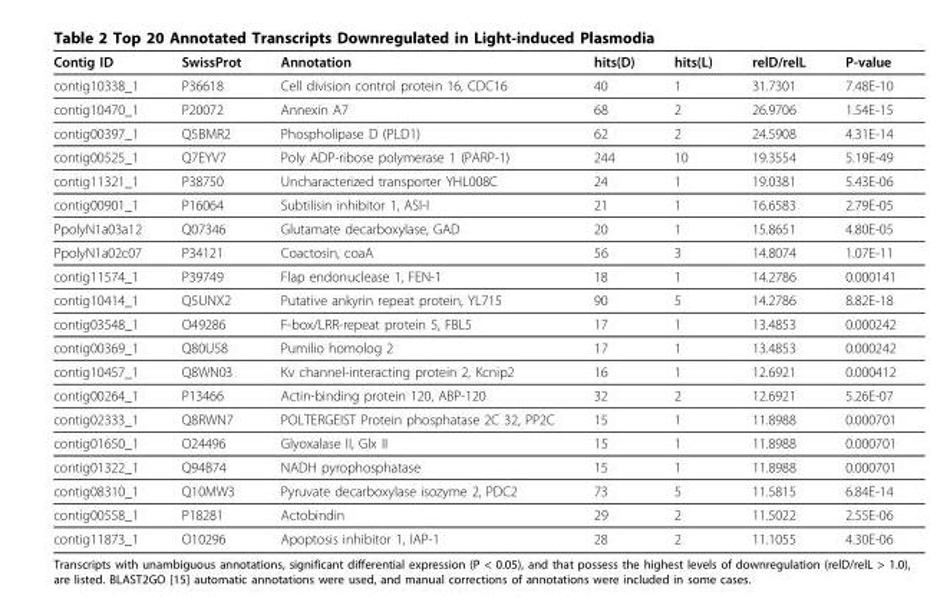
<table><thead><tr><td>Contig ID</td><td>SwissProt</td><td>Annotation</td><td>hits(D)</td><td>hits(L)</td><td>relD/relL</td><td>P-value</td></tr></thead><tbody><tr><td>contig10338_1</td><td>P36618</td><td>Cell division control protein 16, CDC16</td><td>40</td><td>1</td><td>31.7301</td><td>7.48E-10</td></tr><tr><td>contig10470_1</td><td>P20072</td><td>Annexin A7</td><td>68</td><td>2</td><td>26.9706</td><td>1.54E-15</td></tr><tr><td>contig00397_1</td><td>Q5BMR2</td><td>Phospholipase D (PLD1)</td><td>62</td><td>2</td><td>24.5908</td><td>4.31E-14</td></tr><tr><td>contig00525_1</td><td>Q7EYV7</td><td>Poly ADP-ribose polymerase 1 (PARP-1)</td><td>244</td><td>10</td><td>19.3554</td><td>5.19E-49</td></tr><tr><td>contig11321_1</td><td>P38750</td><td>Uncharacterized transporter YHL008C</td><td>24</td><td>1</td><td>19.0381</td><td>5.43E-06</td></tr><tr><td>contig00901_1</td><td>P16064</td><td>Subtilisin inhibitor 1, ASI-I</td><td>21</td><td>1</td><td>16.6583</td><td>2.79E-05</td></tr><tr><td>PpolyN1a03a12</td><td>Q07346</td><td>Glutamate decarboxylase, GAD</td><td>20</td><td>1</td><td>15.8651</td><td>4.80E-05</td></tr><tr><td>PpolyN1a02c07</td><td>P34121</td><td>Coactosin, coaA</td><td>56</td><td>3</td><td>14.8074</td><td>1.07E-11</td></tr><tr><td>contig11574_1</td><td>P39749</td><td>Flap endonuclease 1, FEN-1</td><td>18</td><td>1</td><td>14.2786</td><td>0.000141</td></tr><tr><td>contig10414_1</td><td>Q5UNX2</td><td>Putative ankyrin repeat protein, YL715</td><td>90</td><td>5</td><td>14.2786</td><td>8.82E-18</td></tr><tr><td>contig03548_1</td><td>O49286</td><td>F-box/LRR-repeat protein 5, FBL5</td><td>17</td><td>1</td><td>13.4853</td><td>0.000242</td></tr><tr><td>contig00369_1</td><td>Q80U58</td><td>Pumilio homolog 2</td><td>17</td><td>1</td><td>13.4853</td><td>0.000242</td></tr><tr><td>contig10457_1</td><td>Q8WN03</td><td>Kv channel-interacting protein 2, Kcnip2</td><td>16</td><td>1</td><td>12.6921</td><td>0.000412</td></tr><tr><td>contig00264_1</td><td>P13466</td><td>Actin-binding protein 120, ABP-120</td><td>32</td><td>2</td><td>12.6921</td><td>5.26E-07</td></tr><tr><td>contig02333_1</td><td>Q8RWN7</td><td>POLTERGEIST Protein phosphatase 2C 32, PP2C</td><td>15</td><td>1</td><td>11.8988</td><td>0.000701</td></tr><tr><td>contig01650_1</td><td>O24496</td><td>Glyoxalase II, Glx II</td><td>15</td><td>1</td><td>11.8988</td><td>0.000701</td></tr><tr><td>contig01322_1</td><td>Q94B74</td><td>NADH pyrophosphatase</td><td>15</td><td>1</td><td>11.8988</td><td>0.000701</td></tr><tr><td>contig08310_1</td><td>Q10MW3</td><td>Pyruvate decarboxylase isozyme 2, PDC2</td><td>73</td><td>5</td><td>11.5815</td><td>6.84E-14</td></tr><tr><td>contig00558_1</td><td>P18281</td><td>Actobindin</td><td>29</td><td>2</td><td>11.5022</td><td>2.55E-06</td></tr><tr><td>contig11873_1</td><td>O10296</td><td>Apoptosis inhibitor 1, IAP-1</td><td>28</td><td>2</td><td>11.1055</td><td>4.30E-06</td></tr></tbody></table>